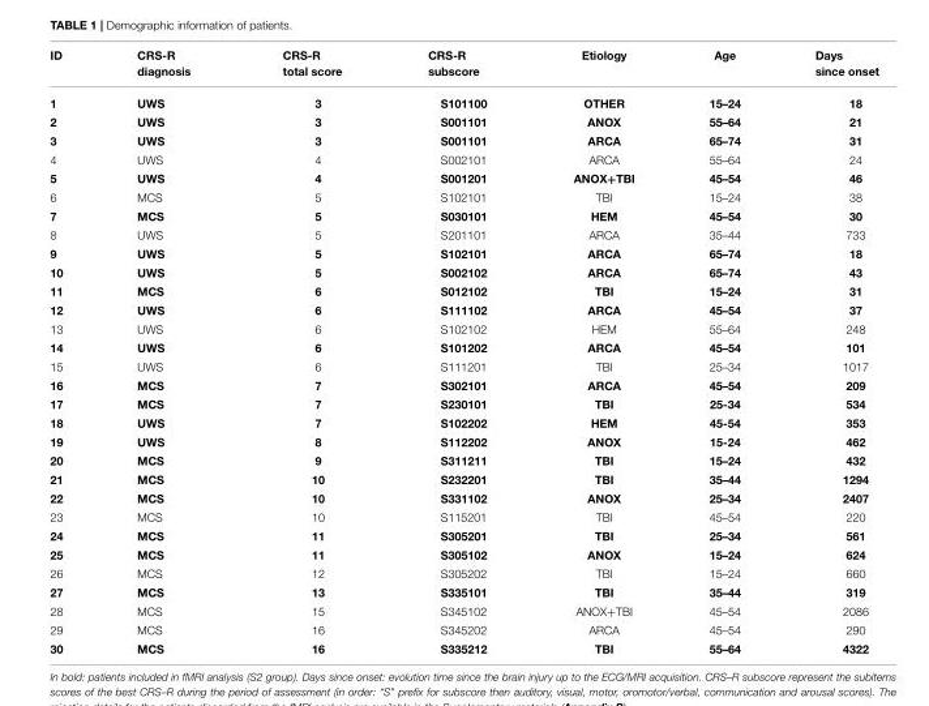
<table><thead><tr><td>ID</td><td>CRS-R diagnosis</td><td>CRS-R total score</td><td>CRS-R subscore</td><td>Etiology</td><td>Age</td><td>Days since onset</td></tr></thead><tbody><tr><td>1</td><td>UWS</td><td>3</td><td>S101100</td><td>OTHER</td><td>15–24</td><td>18</td></tr><tr><td>2</td><td>UWS</td><td>3</td><td>S001101</td><td>ANOX</td><td>55–64</td><td>21</td></tr><tr><td>3</td><td>UWS</td><td>3</td><td>S001101</td><td>ARCA</td><td>65–74</td><td>31</td></tr><tr><td>4</td><td>UWS</td><td>4</td><td>S002101</td><td>ARCA</td><td>55–64</td><td>24</td></tr><tr><td>5</td><td>UWS</td><td>4</td><td>S001201</td><td>ANOX+TBI</td><td>45–54</td><td>46</td></tr><tr><td>6</td><td>MCS</td><td>5</td><td>S102101</td><td>TBI</td><td>15–24</td><td>38</td></tr><tr><td>7</td><td>MCS</td><td>5</td><td>S030101</td><td>HEM</td><td>45–54</td><td>30</td></tr><tr><td>8</td><td>UWS</td><td>5</td><td>S201101</td><td>ARCA</td><td>35–44</td><td>733</td></tr><tr><td>9</td><td>UWS</td><td>5</td><td>S102101</td><td>ARCA</td><td>65–74</td><td>18</td></tr><tr><td>10</td><td>UWS</td><td>5</td><td>S002102</td><td>ARCA</td><td>65–74</td><td>43</td></tr><tr><td>11</td><td>MCS</td><td>6</td><td>S012102</td><td>TBI</td><td>15–24</td><td>31</td></tr><tr><td>12</td><td>UWS</td><td>6</td><td>S111102</td><td>ARCA</td><td>45–54</td><td>37</td></tr><tr><td>13</td><td>UWS</td><td>6</td><td>S102102</td><td>HEM</td><td>55–64</td><td>248</td></tr><tr><td>14</td><td>UWS</td><td>6</td><td>S101202</td><td>ARCA</td><td>45–54</td><td>101</td></tr><tr><td>15</td><td>UWS</td><td>6</td><td>S111201</td><td>TBI</td><td>25–34</td><td>1017</td></tr><tr><td>16</td><td>MCS</td><td>7</td><td>S302101</td><td>ARCA</td><td>45–54</td><td>209</td></tr><tr><td>17</td><td>MCS</td><td>7</td><td>S230101</td><td>TBI</td><td>25-34</td><td>534</td></tr><tr><td>18</td><td>UWS</td><td>7</td><td>S102202</td><td>HEM</td><td>45-54</td><td>353</td></tr><tr><td>19</td><td>UWS</td><td>8</td><td>S112202</td><td>ANOX</td><td>15-24</td><td>462</td></tr><tr><td>20</td><td>MCS</td><td>9</td><td>S311211</td><td>TBI</td><td>15–24</td><td>432</td></tr><tr><td>21</td><td>MCS</td><td>10</td><td>S232201</td><td>TBI</td><td>35–44</td><td>1294</td></tr><tr><td>22</td><td>MCS</td><td>10</td><td>S331102</td><td>ANOX</td><td>25–34</td><td>2407</td></tr><tr><td>23</td><td>MCS</td><td>10</td><td>S115201</td><td>TBI</td><td>45–54</td><td>220</td></tr><tr><td>24</td><td>MCS</td><td>11</td><td>S305201</td><td>TBI</td><td>25–34</td><td>561</td></tr><tr><td>25</td><td>MCS</td><td>11</td><td>S305102</td><td>ANOX</td><td>15–24</td><td>624</td></tr><tr><td>26</td><td>MCS</td><td>12</td><td>S305202</td><td>TBI</td><td>15–24</td><td>660</td></tr><tr><td>27</td><td>MCS</td><td>13</td><td>S335101</td><td>TBI</td><td>35–44</td><td>319</td></tr><tr><td>28</td><td>MCS</td><td>15</td><td>S345102</td><td>ANOX+TBI</td><td>45–54</td><td>2086</td></tr><tr><td>29</td><td>MCS</td><td>16</td><td>S345202</td><td>ARCA</td><td>45–54</td><td>290</td></tr><tr><td>30</td><td>MCS</td><td>16</td><td>S335212</td><td>TBI</td><td>55–64</td><td>4322</td></tr></tbody></table>